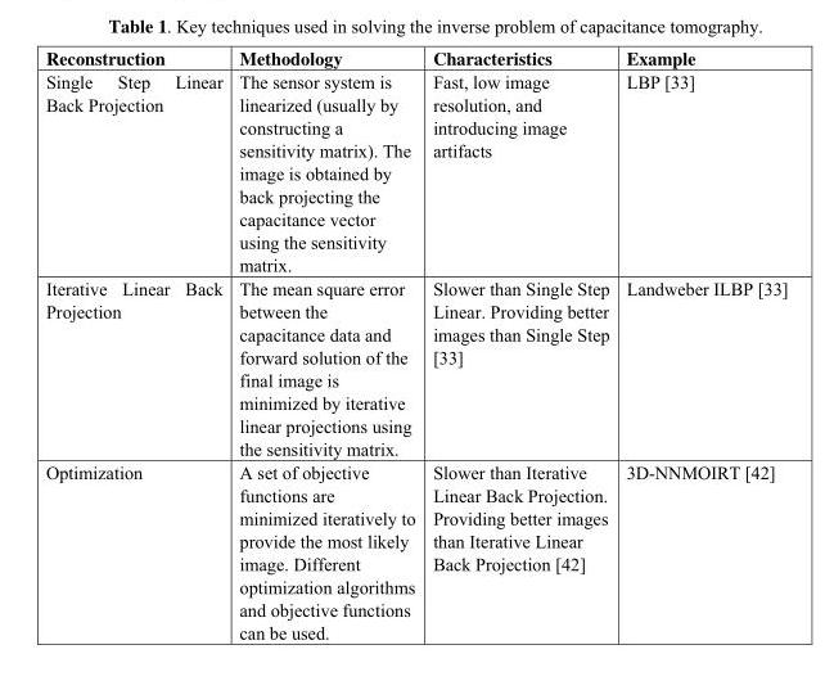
<table><thead><tr><td>Reconstruction</td><td>Methodology</td><td>Characteristics</td><td>Example</td></tr></thead><tbody><tr><td>Single Step Linear Back Projection</td><td>The sensor system is linearized (usually by constructing a sensitivity matrix). The image is obtained by back projecting the capacitance vector using the sensitivity matrix.</td><td>Fast, low image resolution, and introducing image artifacts</td><td>LBP [33]</td></tr><tr><td>Iterative Linear Back Projection</td><td>The mean square error between the capacitance data and forward solution of the final image is minimized by iterative linear projections using the sensitivity matrix.</td><td>Slower than Single Step Linear. Providing better images than Single Step [33]</td><td>Landweber ILBP [33]</td></tr><tr><td>Optimization</td><td>A set of objective functions are minimized iteratively to provide the most likely image. Different optimization algorithms and objective functions can be used.</td><td>Slower than Iterative Linear Back Projection. Providing better images than Iterative Linear Back Projection [42]</td><td>3D-NNMOIRT [42]</td></tr></tbody></table>